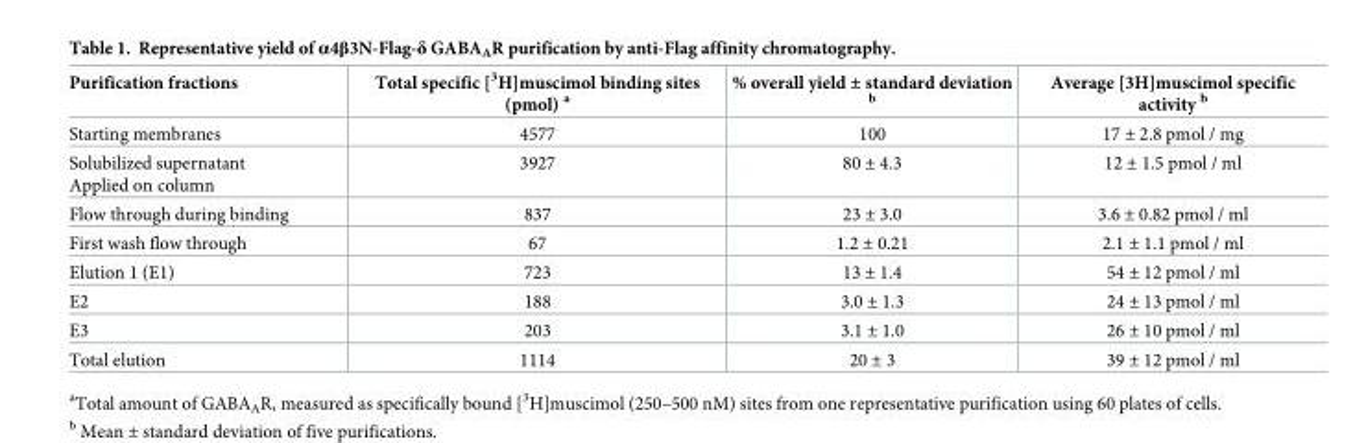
<table><thead><tr><td>Purification fractions</td><td>Total specific [<sup>3</sup>H]muscimol binding sites (pmol) <sup>a</sup></td><td>% overall yield ± standard deviation <sup>b</sup></td><td>Average [3H]muscimol specific activity <sup>b</sup></td></tr></thead><tbody><tr><td>Starting membranes</td><td>4577</td><td>100</td><td>17 ± 2.8 pmol / mg</td></tr><tr><td>Solubilized supernatant Applied on column</td><td>3927</td><td>80 ± 4.3</td><td>12 ± 1.5 pmol / ml</td></tr><tr><td>Flow through during binding</td><td>837</td><td>23 ± 3.0</td><td>3.6 ± 0.82 pmol / ml</td></tr><tr><td>First wash flow through</td><td>67</td><td>1.2 ± 0.21</td><td>2.1 ± 1.1 pmol / ml</td></tr><tr><td>Elution 1 (E1)</td><td>723</td><td>13 ± 1.4</td><td>54 ± 12 pmol / ml</td></tr><tr><td>E2</td><td>188</td><td>3.0 ± 1.3</td><td>24 ± 13 pmol / ml</td></tr><tr><td>E3</td><td>203</td><td>3.1 ± 1.0</td><td>26 ± 10 pmol / ml</td></tr><tr><td>Total elution</td><td>1114</td><td>20 ± 3</td><td>39 ± 12 pmol / ml</td></tr></tbody></table>